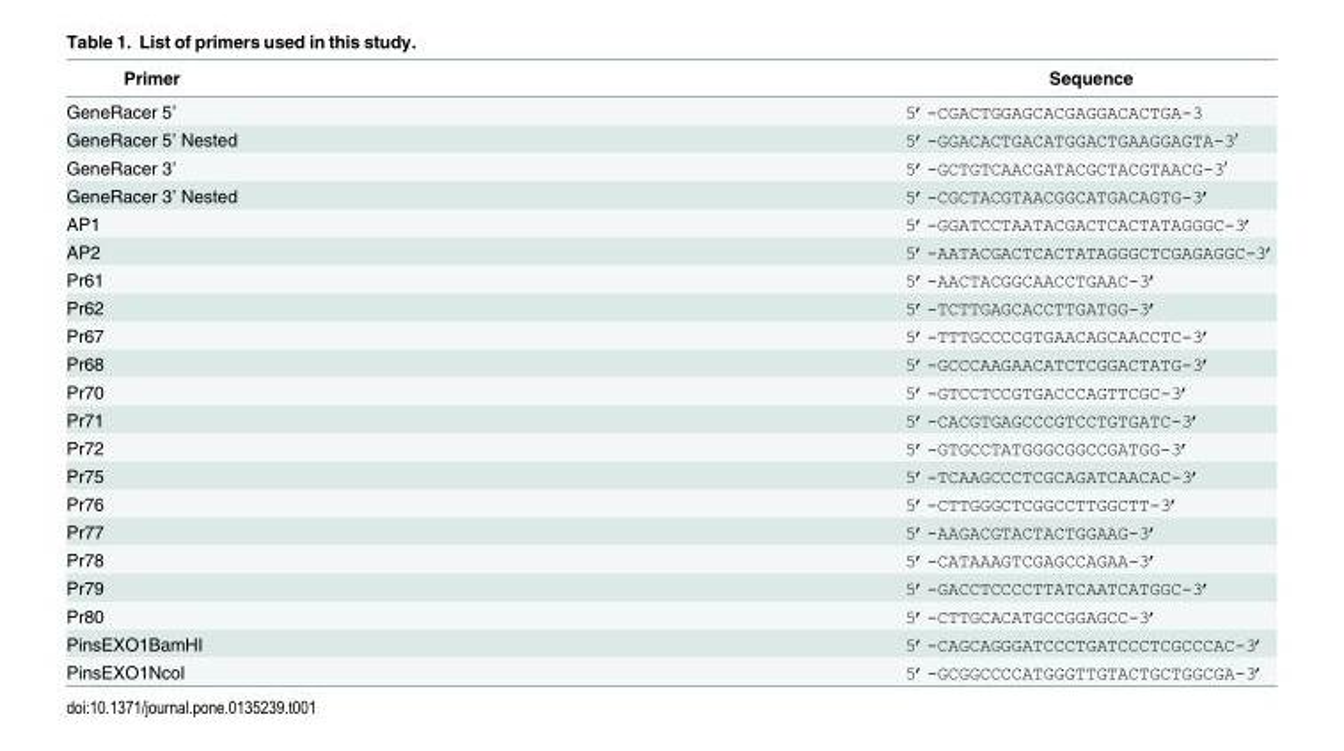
<table><thead><tr><td>Primer</td><td>Sequence</td></tr></thead><tbody><tr><td>GeneRacer 5’</td><td>5’-CGACTGGAGCACGAGGACACTGA-3</td></tr><tr><td>GeneRacer 5’ Nested</td><td>5’-GGACACTGACATGGACTGAAGGAGTA-3′</td></tr><tr><td>GeneRacer 3’</td><td>5’-GCTGTCAACGATACGCTACGTAACG-3′</td></tr><tr><td>GeneRacer 3’ Nested</td><td>5’-CGCTACGTAACGGCATGACAGTG-3’</td></tr><tr><td>AP1</td><td>5’-GGATCCTAATACGACTCACTATAGGGC-3’</td></tr><tr><td>AP2</td><td>5’-AATACGACTCACTATAGGGCTCGAGAGGC-3’</td></tr><tr><td>Pr61</td><td>5’-AACTACGGCAACCTGAAC-3’</td></tr><tr><td>Pr62</td><td>5’-TCTTGAGCACCTTGATGG-3’</td></tr><tr><td>Pr67</td><td>5’-TTTGCCCCGTGAACAGCAACCTC-3’</td></tr><tr><td>Pr68</td><td>5’-GCCCAAGAACATCTCGGACTATG-3’</td></tr><tr><td>Pr70</td><td>5’-GTCCTCCGTGACCCAGTTCGC-3’</td></tr><tr><td>Pr71</td><td>5’-CACGTGAGCCCGTCCTGTGATC-3’</td></tr><tr><td>Pr72</td><td>5’-GTGCCTATGGGCGGCCGATGG-3’</td></tr><tr><td>Pr75</td><td>5’-TCAAGCCCTCGCAGATCAACAC-3’</td></tr><tr><td>Pr76</td><td>5’-CTTGGGCTCGGCCTTGGCTT-3’</td></tr><tr><td>Pr77</td><td>5’-AAGACGTACTACTGGAAG-3’</td></tr><tr><td>Pr78</td><td>5’-CATAAAGTCGAGCCAGAA-3’</td></tr><tr><td>Pr79</td><td>5’-GACCTCCCCTTATCAATCATGGC-3’</td></tr><tr><td>Pr80</td><td>5’-CTTGCACATGCCGGAGCC-3’</td></tr><tr><td>PinsEXO1BamHI</td><td>5’-CAGCAGGGATCCCTGATCCCTCGCCCAC-3’</td></tr><tr><td>PinsEXO1NcoI</td><td>5’-GCGGCCCCATGGGTTGTACTGCTGGCGA-3’</td></tr></tbody></table>